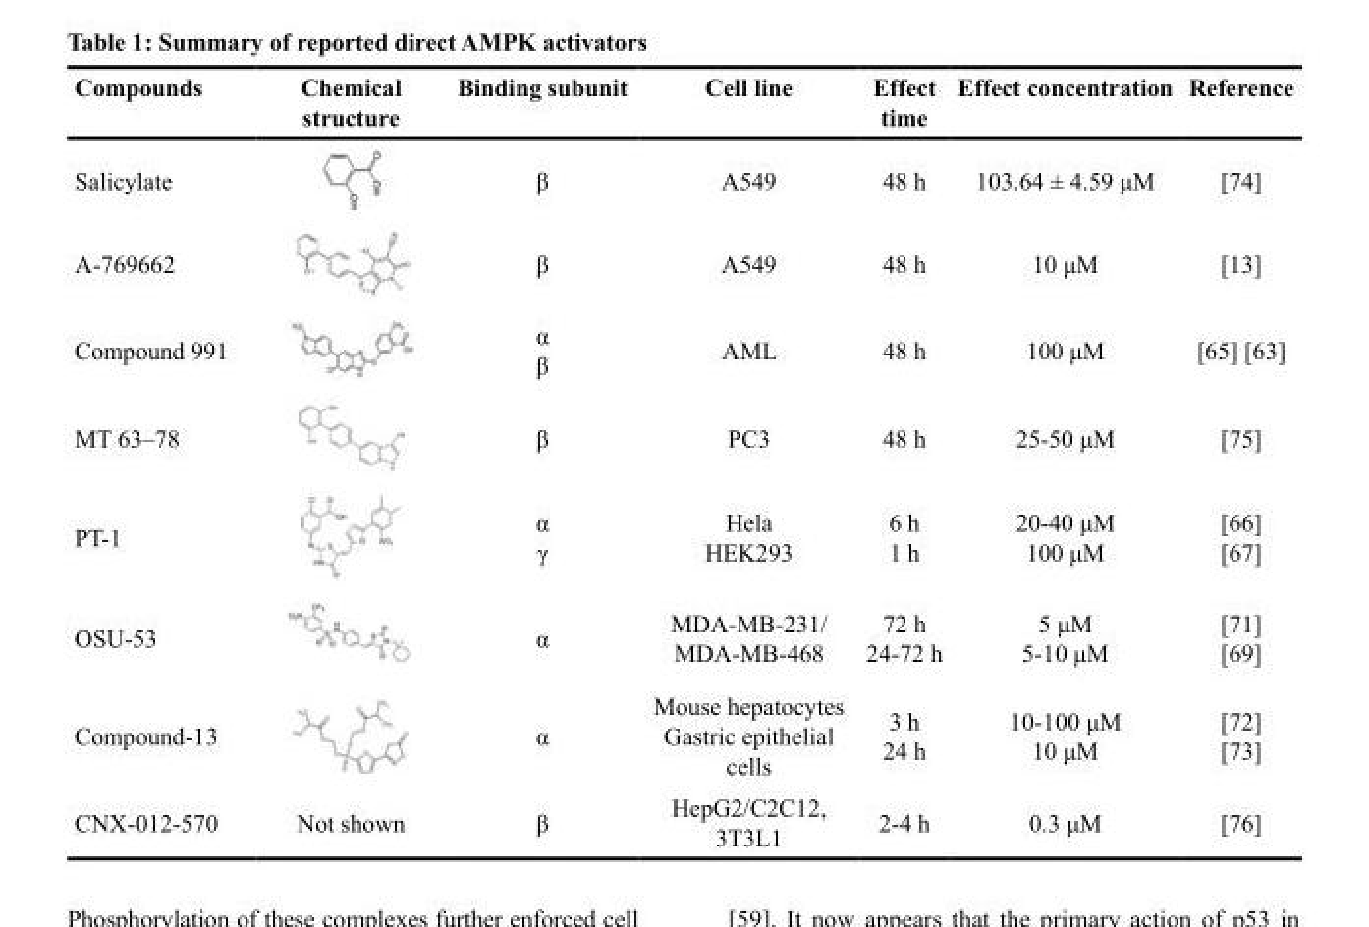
<table><thead><tr><td>Compounds</td><td>Chemical structure</td><td>Binding subunit</td><td>Cell line</td><td>Effect time</td><td>Effect concentration</td><td>Reference</td></tr></thead><tbody><tr><td>Salicylate</td><td></td><td>β</td><td>A549</td><td>48 h</td><td>103.64 ± 4.59 μM</td><td>[74]</td></tr><tr><td>A-769662</td><td></td><td>β</td><td>A549</td><td>48 h</td><td>10 μM</td><td>[13]</td></tr><tr><td>Compound 991</td><td></td><td>α β</td><td>AML</td><td>48 h</td><td>100 μM</td><td>[65] [63]</td></tr><tr><td>MT 63–78</td><td></td><td>β</td><td>PC3</td><td>48 h</td><td>25-50 μM</td><td>[75]</td></tr><tr><td>PT-1</td><td></td><td>α γ</td><td>Hela HEK293</td><td>6 h 1 h</td><td>20-40 μM 100 μM</td><td>[66] [67]</td></tr><tr><td>OSU-53</td><td></td><td>α</td><td>MDA-MB-231/ MDA-MB-468</td><td>72 h 24-72 h</td><td>5 μM 5-10 μM</td><td>[71] [69]</td></tr><tr><td>Compound-13</td><td></td><td>α</td><td>Mouse hepatocytes Gastric epithelial cells</td><td>3 h 24 h</td><td>10-100 μM 10 μM</td><td>[72] [73]</td></tr><tr><td>CNX-012-570</td><td>Not shown</td><td>β</td><td>HepG2/C2C12, 3T3L1</td><td>2-4 h</td><td>0.3 μM</td><td>[76]</td></tr></tbody></table>